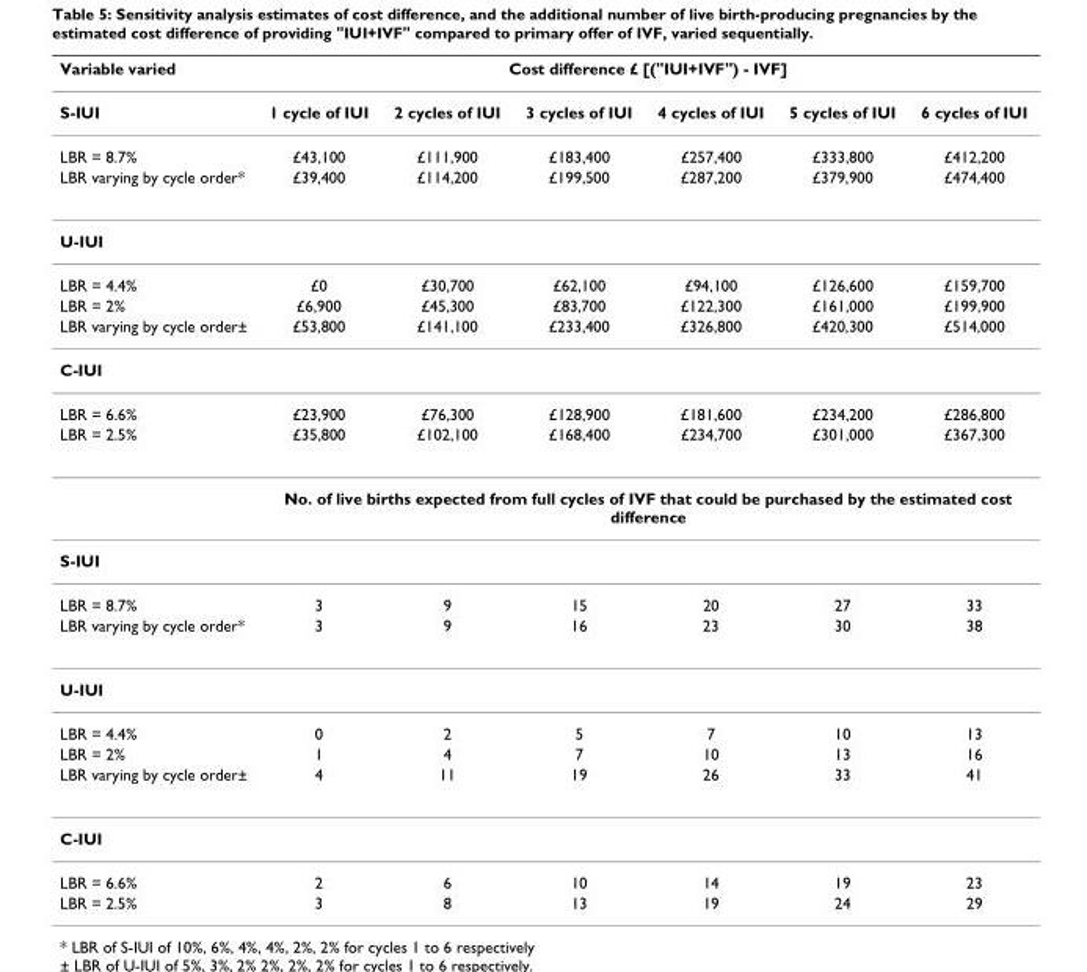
<table><thead><tr><td rowspan="2">Variable varied S-IUI</td><td colspan="6">Cost difference £ [(&quot;IUI+IVF&quot;) - IVF]</td></tr><tr><td>1 cycle of IUI</td><td>2 cycles of IUI</td><td>3 cycles of IUI</td><td>4 cycles of IUI</td><td>5 cycles of IUI</td><td>6 cycles of IUI</td></tr></thead><tbody><tr><td>LBR = 8.7%</td><td>£43,100</td><td>£111,900</td><td>£183,400</td><td>£257,400</td><td>£333,800</td><td>£412,200</td></tr><tr><td>LBR varying by cycle order*</td><td>£39,400</td><td>£114,200</td><td>£199,500</td><td>£287,200</td><td>£379,900</td><td>£474,400</td></tr><tr><td colspan="7">U-IUI</td></tr><tr><td>LBR = 4.4%</td><td>£0</td><td>£30,700</td><td>£62,100</td><td>£94,100</td><td>£126,600</td><td>£159,700</td></tr><tr><td>LBR = 2%</td><td>£6,900</td><td>£45,300</td><td>£83,700</td><td>£122,300</td><td>£161,000</td><td>£199,900</td></tr><tr><td>LBR varying by cycle order±</td><td>£53,800</td><td>£141,100</td><td>£233,400</td><td>£326,800</td><td>£420,300</td><td>£514,000</td></tr><tr><td colspan="7">C-IUI</td></tr><tr><td>LBR = 6.6%</td><td>£23,900</td><td>£76,300</td><td>£128,900</td><td>£181,600</td><td>£234,200</td><td>£286,800</td></tr><tr><td rowspan="2">LBR = 2.5%</td><td>£35,800</td><td>£102,100</td><td>£168,400</td><td>£234,700</td><td>£301,000</td><td>£367,300</td></tr><tr><td colspan="6">No. of live births expected from full cycles of IVF that could be purchased by the estimated cost difference</td></tr><tr><td colspan="7">S-IUI</td></tr><tr><td>LBR = 8.7%</td><td>3</td><td>9</td><td>15</td><td>20</td><td>27</td><td>33</td></tr><tr><td>LBR varying by cycle order*</td><td>3</td><td>9</td><td>16</td><td>23</td><td>30</td><td>38</td></tr><tr><td colspan="7">U-IUI</td></tr><tr><td>LBR = 4.4%</td><td>0</td><td>2</td><td>5</td><td>7</td><td>10</td><td>13</td></tr><tr><td>LBR = 2%</td><td>1</td><td>4</td><td>7</td><td>10</td><td>13</td><td>16</td></tr><tr><td>LBR varying by cycle order±</td><td>4</td><td>11</td><td>19</td><td>26</td><td>33</td><td>41</td></tr><tr><td colspan="7">C-IUI</td></tr><tr><td>LBR = 6.6%</td><td>2</td><td>6</td><td>10</td><td>14</td><td>19</td><td>23</td></tr><tr><td>LBR = 2.5%</td><td>3</td><td>8</td><td>13</td><td>19</td><td>24</td><td>29</td></tr></tbody></table>